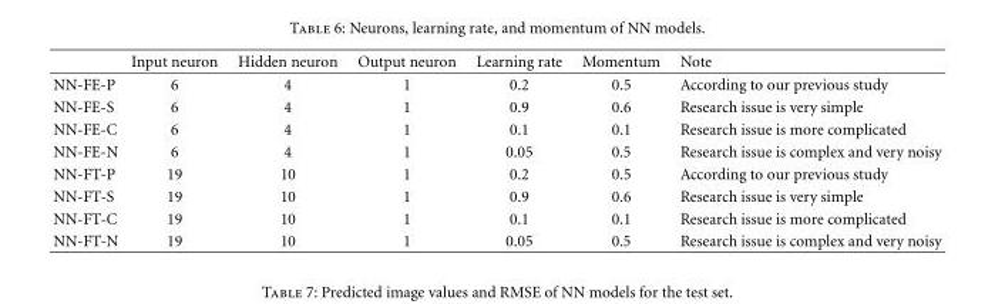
<table><thead><tr><td></td><td>Input neuron</td><td>Hidden neuron</td><td>Output neuron</td><td>Learning rate</td><td>Momentum</td><td>Note</td></tr></thead><tbody><tr><td>NN-FE-P</td><td>6</td><td>4</td><td>1</td><td>0.2</td><td>0.5</td><td>According to our previous study</td></tr><tr><td>NN-FE-S</td><td>6</td><td>4</td><td>1</td><td>0.9</td><td>0.6</td><td>Research issue is very simple</td></tr><tr><td>NN-FE-C</td><td>6</td><td>4</td><td>1</td><td>0.1</td><td>0.1</td><td>Research issue is more complicated</td></tr><tr><td>NN-FE-N</td><td>6</td><td>4</td><td>1</td><td>0.05</td><td>0.5</td><td>Research issue is complex and very noisy</td></tr><tr><td>NN-FT-P</td><td>19</td><td>10</td><td>1</td><td>0.2</td><td>0.5</td><td>According to our previous study</td></tr><tr><td>NN-FT-S</td><td>19</td><td>10</td><td>1</td><td>0.9</td><td>0.6</td><td>Research issue is very simple</td></tr><tr><td>NN-FT-C</td><td>19</td><td>10</td><td>1</td><td>0.1</td><td>0.1</td><td>Research issue is more complicated</td></tr><tr><td>NN-FT-N</td><td>19</td><td>10</td><td>1</td><td>0.05</td><td>0.5</td><td>Research issue is complex and very noisy</td></tr></tbody></table>